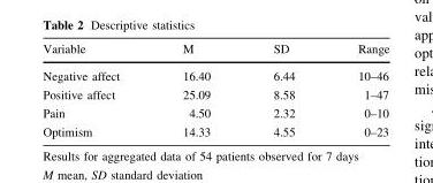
<table><thead><tr><td>Variable</td><td>M</td><td>SD</td><td>Range</td></tr></thead><tbody><tr><td>Negative affect</td><td>16.40</td><td>6.44</td><td>10–46</td></tr><tr><td>Positive affect</td><td>25.09</td><td>8.58</td><td>1–47</td></tr><tr><td>Pain</td><td>4.50</td><td>2.32</td><td>0–10</td></tr><tr><td>Optimism</td><td>14.33</td><td>4.55</td><td>0–23</td></tr></tbody></table>